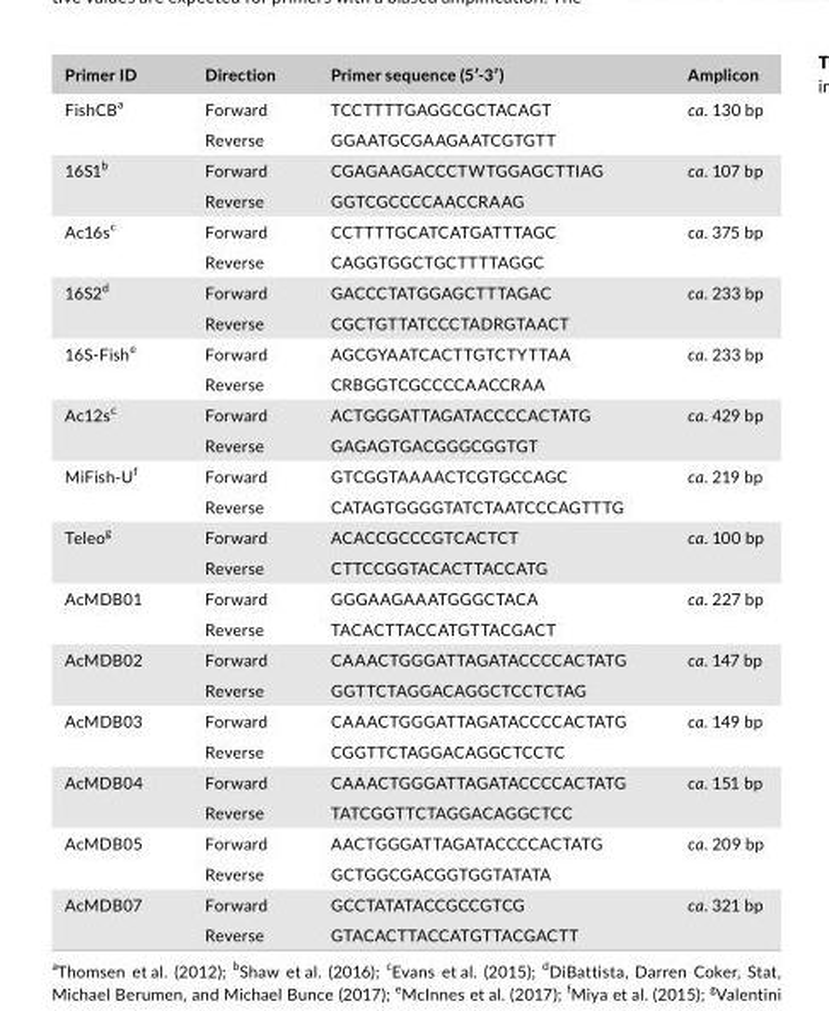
<table><thead><tr><td>Primer ID</td><td>Direction</td><td>Primer sequence (5′- 3′)</td><td>Amplicon</td></tr></thead><tbody><tr><td rowspan="2">FishCB<sup>a</sup></td><td>Forward</td><td>TCCTTTTGAGGCGCTACAGT</td><td>ca. 130 bp</td></tr><tr><td>Reverse</td><td>GGAATGCGAAGAATCGTGTT</td><td></td></tr><tr><td rowspan="2">16S1<sup>b</sup></td><td>Forward</td><td>CGAGAAGACCCTWTGGAGCTTIAG</td><td>ca. 107 bp</td></tr><tr><td>Reverse</td><td>GGTCGCCCCAACCRAAG</td><td></td></tr><tr><td rowspan="2">Ac16s<sup>c</sup></td><td>Forward</td><td>CCTTTTGCATCATGATTTAGC</td><td>ca. 375 bp</td></tr><tr><td>Reverse</td><td>CAGGTGGCTGCTTTTAGGC</td><td></td></tr><tr><td rowspan="2">16S2<sup>d</sup></td><td>Forward</td><td>GACCCTATGGAGCTTTAGAC</td><td>ca. 233 bp</td></tr><tr><td>Reverse</td><td>CGCTGTTATCCCTADRGTAACT</td><td></td></tr><tr><td rowspan="2">16S- Fish<sup>e</sup></td><td>Forward</td><td>AGCGYAATCACTTGTCTYTTAA</td><td>ca. 233 bp</td></tr><tr><td>Reverse</td><td>CRBGGTCGCCCCAACCRAA</td><td></td></tr><tr><td rowspan="2">Ac12s<sup>c</sup></td><td>Forward</td><td>ACTGGGATTAGATACCCCACTATG</td><td>ca. 429 bp</td></tr><tr><td>Reverse</td><td>GAGAGTGACGGGCGGTGT</td><td></td></tr><tr><td rowspan="2">MiFish- U<sup>f</sup></td><td>Forward</td><td>GTCGGTAAAACTCGTGCCAGC</td><td>ca. 219 bp</td></tr><tr><td>Reverse</td><td>CATAGTGGGGTATCTAATCCCAGTTTG</td><td></td></tr><tr><td rowspan="2">Teleo<sup>g</sup></td><td>Forward</td><td>ACACCGCCCGTCACTCT</td><td>ca. 100 bp</td></tr><tr><td>Reverse</td><td>CTTCCGGTACACTTACCATG</td><td></td></tr><tr><td rowspan="2">AcMDB01</td><td>Forward</td><td>GGGAAGAAATGGGCTACA</td><td>ca. 227 bp</td></tr><tr><td>Reverse</td><td>TACACTTACCATGTTACGACT</td><td></td></tr><tr><td rowspan="2">AcMDB02</td><td>Forward</td><td>CAAACTGGGATTAGATACCCCACTATG</td><td>ca. 147 bp</td></tr><tr><td>Reverse</td><td>GGTTCTAGGACAGGCTCCTCTAG</td><td></td></tr><tr><td rowspan="2">AcMDB03</td><td>Forward</td><td>CAAACTGGGATTAGATACCCCACTATG</td><td>ca. 149 bp</td></tr><tr><td>Reverse</td><td>CGGTTCTAGGACAGGCTCCTC</td><td></td></tr><tr><td rowspan="2">AcMDB04</td><td>Forward</td><td>CAAACTGGGATTAGATACCCCACTATG</td><td>ca. 151 bp</td></tr><tr><td>Reverse</td><td>TATCGGTTCTAGGACAGGCTCC</td><td></td></tr><tr><td rowspan="2">AcMDB05</td><td>Forward</td><td>AACTGGGATTAGATACCCCACTATG</td><td>ca. 209 bp</td></tr><tr><td>Reverse</td><td>GCTGGCGACGGTGGTATATA</td><td></td></tr><tr><td rowspan="2">AcMDB07</td><td>Forward</td><td>GCCTATATACCGCCGTCG</td><td>ca. 321 bp</td></tr><tr><td>Reverse</td><td>GTACACTTACCATGTTACGACTT</td><td></td></tr></tbody></table>